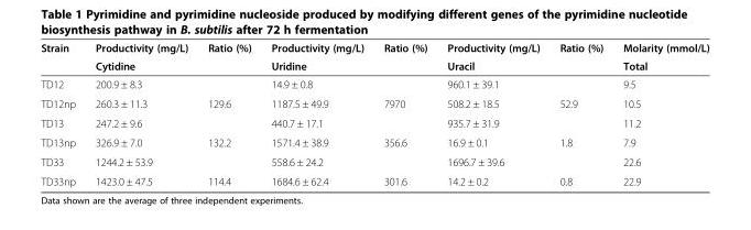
<table><thead><tr><td rowspan="2">Strain</td><td>Productivity (mg/L)</td><td>Ratio (%)</td><td>Productivity (mg/L)</td><td>Ratio (%)</td><td>Productivity (mg/L)</td><td>Ratio (%)</td><td rowspan="2">Molarity (mmol/L) Total</td></tr><tr><td colspan="2">Cytidine</td><td colspan="2">Uridine</td><td colspan="2">Uracil</td></tr></thead><tbody><tr><td>TD12</td><td>200.9 ± 8.3</td><td></td><td>14.9 ± 0.8</td><td></td><td>960.1 ± 39.1</td><td></td><td>9.5</td></tr><tr><td>TD12np</td><td>260.3 ± 11.3</td><td>129.6</td><td>1187.5 ± 49.9</td><td>7970</td><td>508.2 ± 18.5</td><td>52.9</td><td>10.5</td></tr><tr><td>TD13</td><td>247.2 ± 9.6</td><td></td><td>440.7 ± 17.1</td><td></td><td>935.7 ± 31.9</td><td></td><td>11.2</td></tr><tr><td>TD13np</td><td>326.9 ± 7.0</td><td>132.2</td><td>1571.4 ± 38.9</td><td>356.6</td><td>16.9 ± 0.1</td><td>1.8</td><td>7.9</td></tr><tr><td>TD33</td><td>1244.2 ± 53.9</td><td></td><td>558.6 ± 24.2</td><td></td><td>1696.7 ± 39.6</td><td></td><td>22.6</td></tr><tr><td>TD33np</td><td>1423.0 ± 47.5</td><td>114.4</td><td>1684.6 ± 62.4</td><td>301.6</td><td>14.2 ± 0.2</td><td>0.8</td><td>22.9</td></tr></tbody></table>